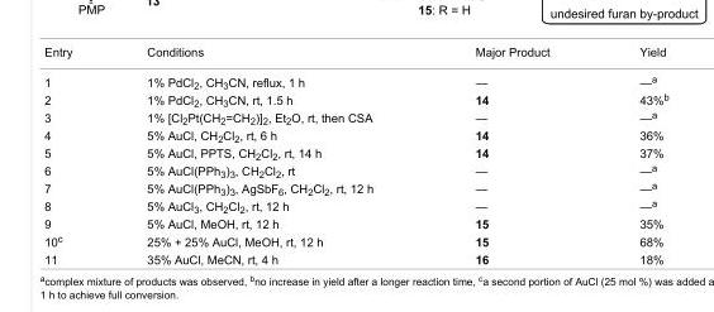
<table><tbody><tr><td>Entry</td><td>Conditions</td><td>Major Product</td><td>Yield</td></tr><tr><td>1</td><td>1% PdCl<sub>2</sub>, CH<sub>3</sub>CN, reflux, 1 h</td><td>—</td><td>—<sup>a</sup></td></tr><tr><td>2</td><td>1% PdCl<sub>2</sub>, CH<sub>3</sub>CN, rt, 1.5 h</td><td>14</td><td>43%<sup>b</sup></td></tr><tr><td>3</td><td>1% [Cl<sub>2</sub>Pt(CH<sub>2</sub>=CH<sub>2</sub>)]<sub>2</sub>, Et<sub>2</sub>O, rt, then CSA</td><td>—</td><td>—<sup>a</sup></td></tr><tr><td>4</td><td>5% AuCl, CH<sub>2</sub>Cl<sub>2</sub>, rt, 6 h</td><td>14</td><td>36%</td></tr><tr><td>5</td><td>5% AuCl, PPTS, CH<sub>2</sub>Cl<sub>2</sub>, rt, 14 h</td><td>14</td><td>37%</td></tr><tr><td>6</td><td>5% AuCl(PPh<sub>3</sub>)<sub>3</sub>, CH<sub>2</sub>Cl<sub>2</sub>, rt</td><td>—</td><td>—<sup>a</sup></td></tr><tr><td>7</td><td>5% AuCl(PPh<sub>3</sub>)<sub>3</sub>, AgSbF<sub>6</sub>, CH<sub>2</sub>Cl<sub>2</sub>, rt, 12 h</td><td>—</td><td>—<sup>a</sup></td></tr><tr><td>8</td><td>5% AuCl<sub>3</sub>, CH<sub>2</sub>Cl<sub>2</sub>, rt, 12 h</td><td>—</td><td>—<sup>a</sup></td></tr><tr><td>9</td><td>5% AuCl, MeOH, rt, 12 h</td><td>15</td><td>35%</td></tr><tr><td>10<sup>c</sup></td><td>25% + 25% AuCl, MeOH, rt, 12 h</td><td>15</td><td>68%</td></tr><tr><td>11</td><td>35% AuCl, MeCN, rt, 4 h</td><td>16</td><td>18%</td></tr></tbody></table>